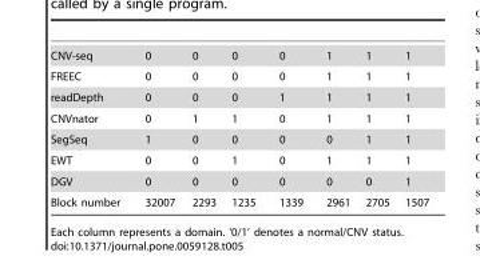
<table><tbody><tr><td>CNV-seq</td><td>0</td><td>0</td><td>0</td><td>0</td><td>1</td><td>1</td><td>1</td></tr><tr><td>FREEC</td><td>0</td><td>0</td><td>0</td><td>0</td><td>1</td><td>1</td><td>1</td></tr><tr><td>readDepth</td><td>0</td><td>0</td><td>0</td><td>1</td><td>1</td><td>1</td><td>1</td></tr><tr><td>CNVnator</td><td>0</td><td>1</td><td>1</td><td>0</td><td>1</td><td>1</td><td>1</td></tr><tr><td>SegSeq</td><td>1</td><td>0</td><td>0</td><td>0</td><td>0</td><td>1</td><td>1</td></tr><tr><td>EWT</td><td>0</td><td>0</td><td>1</td><td>0</td><td>1</td><td>1</td><td>1</td></tr><tr><td>DGV</td><td>0</td><td>0</td><td>0</td><td>0</td><td>0</td><td>0</td><td>1</td></tr><tr><td>Block number</td><td>32007</td><td>2293</td><td>1235</td><td>1339</td><td>2961</td><td>2705</td><td>1507</td></tr></tbody></table>